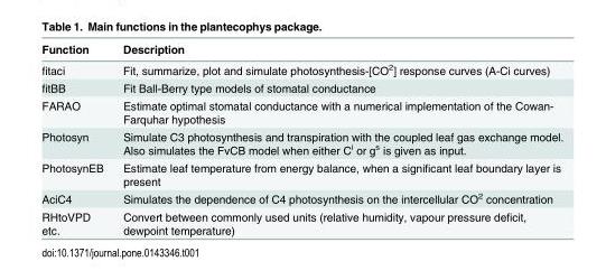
<table><thead><tr><td>Function</td><td>Description</td></tr></thead><tbody><tr><td>fitaci</td><td>Fit, summarize, plot and simulate photosynthesis-[CO<sup>2</sup>] response curves (A-Ci curves)</td></tr><tr><td>fitBB</td><td>Fit Ball-Berry type models of stomatal conductance</td></tr><tr><td>FARAO</td><td>Estimate optimal stomatal conductance with a numerical implementation of the Cowan- Farquhar hypothesis</td></tr><tr><td>Photosyn</td><td>Simulate C3 photosynthesis and transpiration with the coupled leaf gas exchange model. Also simulates the FvCB model when either C<sup>i</sup> or g<sup>s</sup> is given as input.</td></tr><tr><td>PhotosynEB</td><td>Estimate leaf temperature from energy balance, when a significant leaf boundary layer is present</td></tr><tr><td>AciC4</td><td>Simulates the dependence of C4 photosynthesis on the intercellular CO<sup>2</sup> concentration</td></tr><tr><td>RHtoVPD etc.</td><td>Convert between commonly used units (relative humidity, vapour pressure deficit, dewpoint temperature)</td></tr></tbody></table>